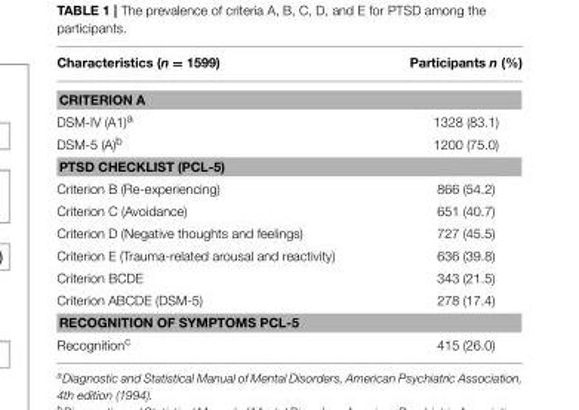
<table><thead><tr><td>Characteristics (n = 1599)</td><td>Participants n (%)</td></tr></thead><tbody><tr><td colspan="2">CRITERION A</td></tr><tr><td>DSM-IV (A1)<sup>a</sup></td><td>1328 (83.1)</td></tr><tr><td>DSM-5 (A)<sup>b</sup></td><td>1200 (75.0)</td></tr><tr><td colspan="2">PTSD CHECKLIST (PCL-5)</td></tr><tr><td>Criterion B (Re-experiencing)</td><td>866 (54.2)</td></tr><tr><td>Criterion C (Avoidance)</td><td>651 (40.7)</td></tr><tr><td>Criterion D (Negative thoughts and feelings)</td><td>727 (45.5)</td></tr><tr><td>Criterion E (Trauma-related arousal and reactivity)</td><td>636 (39.8)</td></tr><tr><td>Criterion BCDE</td><td>343 (21.5)</td></tr><tr><td>Criterion ABCDE (DSM-5)</td><td>278 (17.4)</td></tr><tr><td colspan="2">RECOGNITION OF SYMPTOMS PCL-5</td></tr><tr><td>Recognition<sup>c</sup></td><td>415 (26.0)</td></tr></tbody></table>